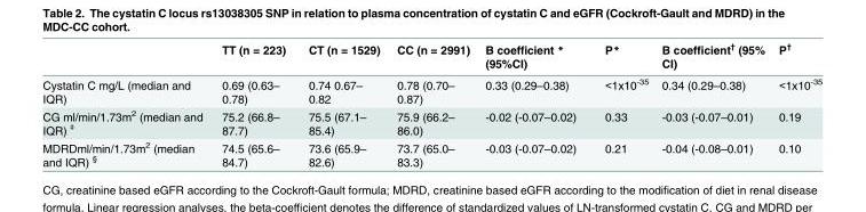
<table><thead><tr><td></td><td>TT (n = 223)</td><td>CT (n = 1529)</td><td>CC (n = 2991)</td><td>B coefficient * (95%CI)</td><td>P*</td><td>B coefficient<sup>†</sup> (95% CI)</td><td>P<sup>†</sup></td></tr></thead><tbody><tr><td>Cystatin C mg/L (median and IQR)</td><td>0.69 (0.63– 0.78)</td><td>0.74 0.67– 0.82</td><td>0.78 (0.70– 0.87)</td><td>0.33 (0.29–0.38)</td><td>&lt;1x10<sup>-35</sup></td><td>0.34 (0.29–0.38)</td><td>&lt;1x10<sup>-35</sup></td></tr><tr><td>CG ml/min/1.73m<sup>2</sup> (median and IQR) <sup>ǂ</sup></td><td>75.2 (66.8– 87.7)</td><td>75.5 (67.1– 85.4)</td><td>75.9 (66.2– 86.0)</td><td>-0.02 (-0.07–0.02)</td><td>0.33</td><td>-0.03 (-0.07–0.01)</td><td>0.19</td></tr><tr><td>MDRDml/min/1.73m<sup>2</sup> (median and IQR) <sup>§</sup></td><td>74.5 (65.6– 84.7)</td><td>73.6 (65.9– 82.6)</td><td>73.7 (65.0– 83.3)</td><td>-0.03 (-0.07–0.02)</td><td>0.21</td><td>-0.04 (-0.08–0.01)</td><td>0.10</td></tr></tbody></table>